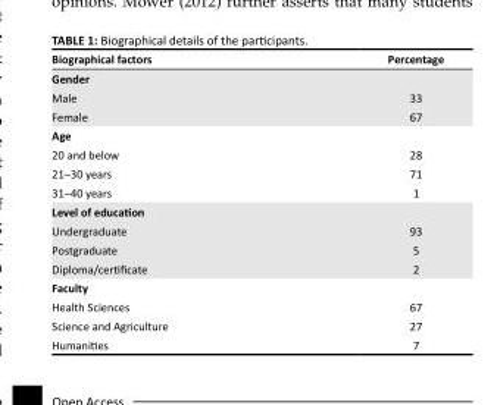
<table><thead><tr><td>Biographical factors</td><td>Percentage</td></tr></thead><tbody><tr><td colspan="2">Gender</td></tr><tr><td>Male</td><td>33</td></tr><tr><td>Female</td><td>67</td></tr><tr><td colspan="2">Age</td></tr><tr><td>20 and below</td><td>28</td></tr><tr><td>21–30 years</td><td>71</td></tr><tr><td>31–40 years</td><td>1</td></tr><tr><td colspan="2">Level of education</td></tr><tr><td>Undergraduate</td><td>93</td></tr><tr><td>Postgraduate</td><td>5</td></tr><tr><td>Diploma/certificate</td><td>2</td></tr><tr><td colspan="2">Faculty</td></tr><tr><td>Health Sciences</td><td>67</td></tr><tr><td>Science and Agriculture</td><td>27</td></tr><tr><td>Humanities</td><td>7</td></tr></tbody></table>